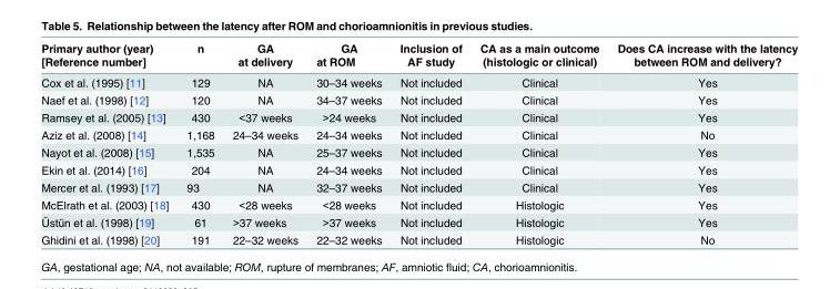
<table><thead><tr><td rowspan="2">Primary author (year) [Reference number]</td><td rowspan="2">n</td><td rowspan="2">GA at delivery</td><td rowspan="2">GA at ROM</td><td rowspan="2">Inclusion of AF study</td><td rowspan="2">CA as a main outcome (histologic or clinical)</td><td rowspan="2">Does CA increase with the latency between ROM and delivery?</td></tr><tr></tr></thead><tbody><tr><td>Cox et al. (1995) [11]</td><td>129</td><td>NA</td><td>30–34 weeks</td><td>Not included</td><td>Clinical</td><td>Yes</td></tr><tr><td>Naef et al. (1998) [12]</td><td>120</td><td>NA</td><td>34–37 weeks</td><td>Not included</td><td>Clinical</td><td>Yes</td></tr><tr><td>Ramsey et al. (2005) [13]</td><td>430</td><td>&lt;37 weeks</td><td>&gt;24 weeks</td><td>Not included</td><td>Clinical</td><td>Yes</td></tr><tr><td>Aziz et al. (2008) [14]</td><td>1,168</td><td>24–34 weeks</td><td>24–34 weeks</td><td>Not included</td><td>Clinical</td><td>No</td></tr><tr><td>Nayot et al. (2008) [15]</td><td>1,535</td><td>NA</td><td>25–37 weeks</td><td>Not included</td><td>Clinical</td><td>Yes</td></tr><tr><td>Ekin et al. (2014) [16]</td><td>204</td><td>NA</td><td>24–34 weeks</td><td>Not included</td><td>Clinical</td><td>Yes</td></tr><tr><td>Mercer et al. (1993) [17]</td><td>93</td><td>NA</td><td>32–37 weeks</td><td>Not included</td><td>Clinical</td><td>Yes</td></tr><tr><td>McElrath et al. (2003) [18]</td><td>430</td><td>&lt;28 weeks</td><td>&lt;28 weeks</td><td>Not included</td><td>Histologic</td><td>Yes</td></tr><tr><td>Üstün et al. (1998) [19]</td><td>61</td><td>&gt;37 weeks</td><td>&gt;37 weeks</td><td>Not included</td><td>Histologic</td><td>Yes</td></tr><tr><td>Ghidini et al. (1998) [20]</td><td>191</td><td>22–32 weeks</td><td>22–32 weeks</td><td>Not included</td><td>Histologic</td><td>No</td></tr></tbody></table>